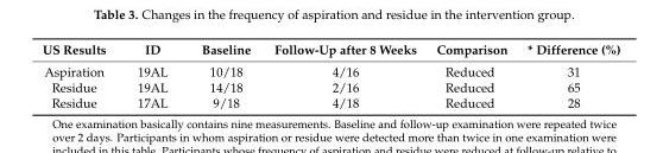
<table><thead><tr><td>US Results</td><td>ID</td><td>Baseline</td><td>Follow-Up after 8 Weeks</td><td>Comparison</td><td>* Difference (%)</td></tr></thead><tbody><tr><td>Aspiration</td><td>19AL</td><td>10/18</td><td>4/16</td><td>Reduced</td><td>31</td></tr><tr><td>Residue</td><td>19AL</td><td>14/18</td><td>2/16</td><td>Reduced</td><td>65</td></tr><tr><td>Residue</td><td>17AL</td><td>9/18</td><td>4/18</td><td>Reduced</td><td>28</td></tr></tbody></table>